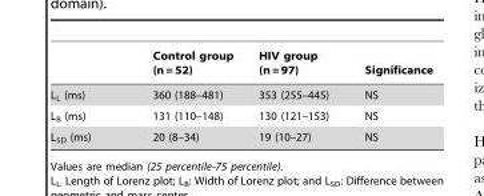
<table><thead><tr><td></td><td>Control group (n = 52)</td><td>HIV group (n = 97)</td><td>Significance</td></tr></thead><tbody><tr><td>L<sub>L</sub> (ms)</td><td>360 (188–481)</td><td>353 (255–445)</td><td>NS</td></tr><tr><td>L<sub>B</sub> (ms)</td><td>131 (110–148)</td><td>130 (121–153)</td><td>NS</td></tr><tr><td>L<sub>SD</sub> (ms)</td><td>20 (8–34)</td><td>19 (10–27)</td><td>NS</td></tr></tbody></table>